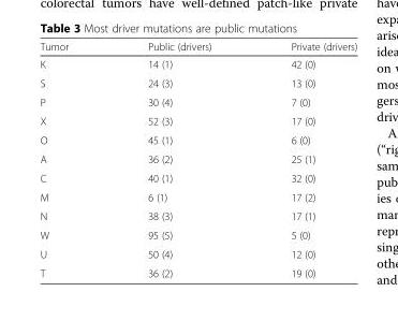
<table><thead><tr><td>Tumor</td><td>Public (drivers)</td><td>Private (drivers)</td></tr></thead><tbody><tr><td>K</td><td>14 (1)</td><td>42 (0)</td></tr><tr><td>S</td><td>24 (3)</td><td>13 (0)</td></tr><tr><td>P</td><td>30 (4)</td><td>7 (0)</td></tr><tr><td>X</td><td>52 (3)</td><td>17 (0)</td></tr><tr><td>O</td><td>45 (1)</td><td>6 (0)</td></tr><tr><td>A</td><td>36 (2)</td><td>25 (1)</td></tr><tr><td>C</td><td>40 (1)</td><td>32 (0)</td></tr><tr><td>M</td><td>6 (1)</td><td>17 (2)</td></tr><tr><td>N</td><td>38 (3)</td><td>17 (1)</td></tr><tr><td>W</td><td>95 (5)</td><td>5 (0)</td></tr><tr><td>U</td><td>50 (4)</td><td>12 (0)</td></tr><tr><td>T</td><td>36 (2)</td><td>19 (0)</td></tr></tbody></table>